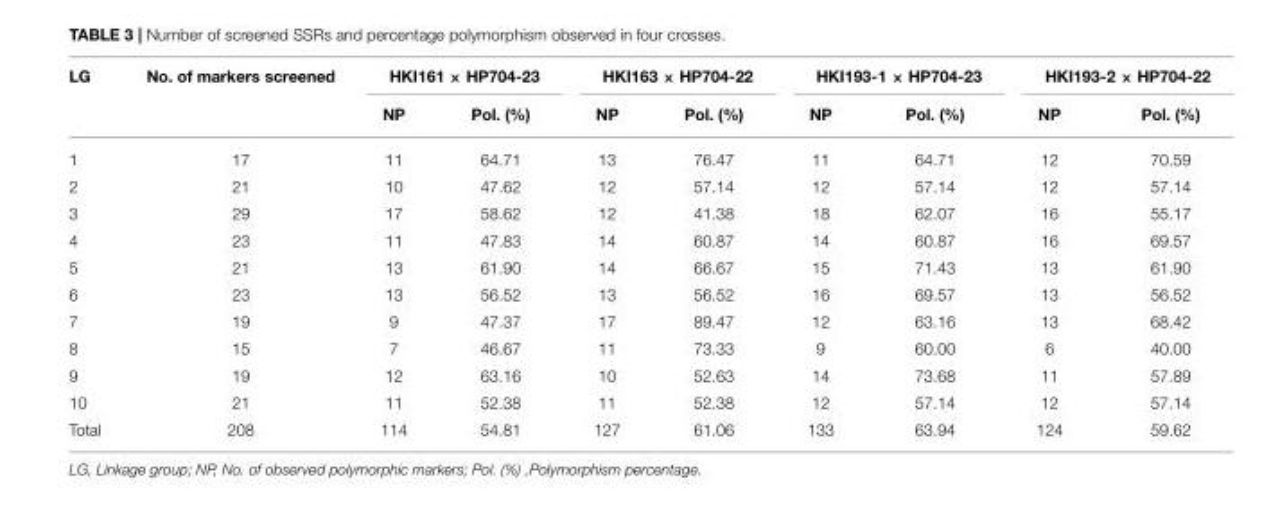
<table><thead><tr><td rowspan="2">LG</td><td rowspan="2">No. of markers screened</td><td colspan="2">HKI161 × HP704-23</td><td colspan="2">HKI163 × HP704-22</td><td colspan="2">HKI193-1 × HP704-23</td><td colspan="2">HKI193-2 × HP704-22</td></tr><tr><td>NP</td><td>Pol. (%)</td><td>NP</td><td>Pol. (%)</td><td>NP</td><td>Pol. (%)</td><td>NP</td><td>Pol. (%)</td></tr></thead><tbody><tr><td>1</td><td>17</td><td>11</td><td>64.71</td><td>13</td><td>76.47</td><td>11</td><td>64.71</td><td>12</td><td>70.59</td></tr><tr><td>2</td><td>21</td><td>10</td><td>47.62</td><td>12</td><td>57.14</td><td>12</td><td>57.14</td><td>12</td><td>57.14</td></tr><tr><td>3</td><td>29</td><td>17</td><td>58.62</td><td>12</td><td>41.38</td><td>18</td><td>62.07</td><td>16</td><td>55.17</td></tr><tr><td>4</td><td>23</td><td>11</td><td>47.83</td><td>14</td><td>60.87</td><td>14</td><td>60.87</td><td>16</td><td>69.57</td></tr><tr><td>5</td><td>21</td><td>13</td><td>61.90</td><td>14</td><td>66.67</td><td>15</td><td>71.43</td><td>13</td><td>61.90</td></tr><tr><td>6</td><td>23</td><td>13</td><td>56.52</td><td>13</td><td>56.52</td><td>16</td><td>69.57</td><td>13</td><td>56.52</td></tr><tr><td>7</td><td>19</td><td>9</td><td>47.37</td><td>17</td><td>89.47</td><td>12</td><td>63.16</td><td>13</td><td>68.42</td></tr><tr><td>8</td><td>15</td><td>7</td><td>46.67</td><td>11</td><td>73.33</td><td>9</td><td>60.00</td><td>6</td><td>40.00</td></tr><tr><td>9</td><td>19</td><td>12</td><td>63.16</td><td>10</td><td>52.63</td><td>14</td><td>73.68</td><td>11</td><td>57.89</td></tr><tr><td>10</td><td>21</td><td>11</td><td>52.38</td><td>11</td><td>52.38</td><td>12</td><td>57.14</td><td>12</td><td>57.14</td></tr><tr><td>Total</td><td>208</td><td>114</td><td>54.81</td><td>127</td><td>61.06</td><td>133</td><td>63.94</td><td>124</td><td>59.62</td></tr></tbody></table>